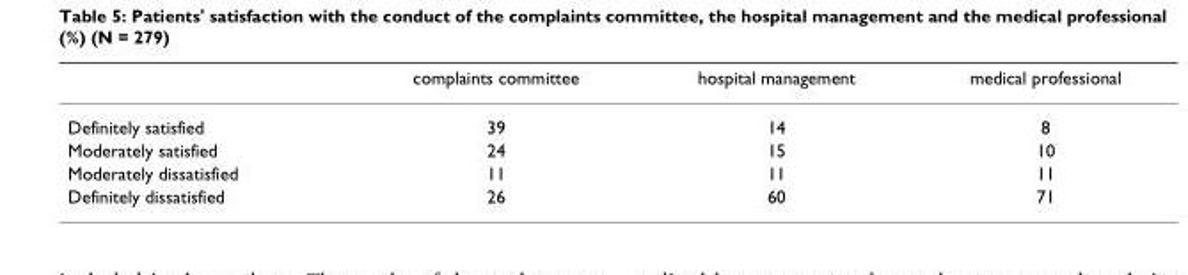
<table><thead><tr><td></td><td>complaints committee</td><td>hospital management</td><td>medical professional</td></tr></thead><tbody><tr><td>Definitely satisfied</td><td>39</td><td>14</td><td>8</td></tr><tr><td>Moderately satisfied</td><td>24</td><td>15</td><td>10</td></tr><tr><td>Moderately dissatisfied</td><td>11</td><td>11</td><td>11</td></tr><tr><td>Definitely dissatisfied</td><td>26</td><td>60</td><td>71</td></tr></tbody></table>